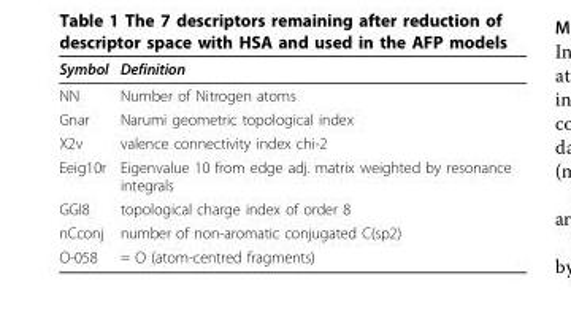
<table><thead><tr><td>Symbol</td><td>Definition</td></tr></thead><tbody><tr><td>NN</td><td>Number of Nitrogen atoms</td></tr><tr><td>Gnar</td><td>Narumi geometric topological index</td></tr><tr><td>X2v</td><td>valence connectivity index chi-2</td></tr><tr><td>Eeig10r</td><td>Eigenvalue 10 from edge adj. matrix weighted by resonance integrals</td></tr><tr><td>GGI8</td><td>topological charge index of order 8</td></tr><tr><td>nCconj</td><td>number of non-aromatic conjugated C(sp2)</td></tr><tr><td>O-058</td><td>= O (atom-centred fragments)</td></tr></tbody></table>